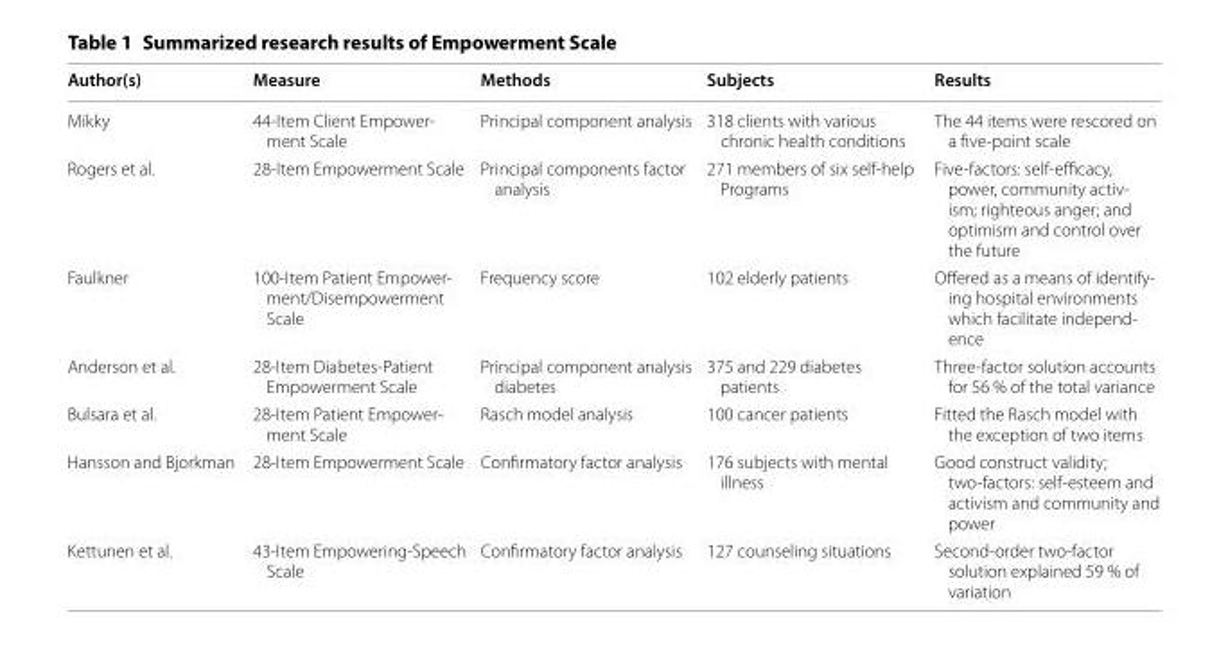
<table><thead><tr><td>Author(s)</td><td>Measure</td><td>Methods</td><td>Subjects</td><td>Results</td></tr></thead><tbody><tr><td>Mikky</td><td>44-Item Client Empower- ment Scale</td><td>Principal component analysis</td><td>318 clients with various chronic health conditions</td><td>The 44 items were rescored on a five-point scale</td></tr><tr><td>Rogers et al.</td><td>28-Item Empowerment Scale</td><td>Principal components factor analysis</td><td>271 members of six self-help Programs</td><td>Five-factors: self-efficacy, power, community activ- ism; righteous anger; and optimism and control over the future</td></tr><tr><td>Faulkner</td><td>100-Item Patient Empower- ment/Disempowerment Scale</td><td>Frequency score</td><td>102 elderly patients</td><td>Offered as a means of identify- ing hospital environments which facilitate independ- ence</td></tr><tr><td>Anderson et al.</td><td>28-Item Diabetes-Patient Empowerment Scale</td><td>Principal component analysis diabetes</td><td>375 and 229 diabetes patients</td><td>Three-factor solution accounts for 56 % of the total variance</td></tr><tr><td>Bulsara et al.</td><td>28-Item Patient Empower- ment Scale</td><td>Rasch model analysis</td><td>100 cancer patients</td><td>Fitted the Rasch model with the exception of two items</td></tr><tr><td>Hansson and Bjorkman</td><td>28-Item Empowerment Scale</td><td>Confirmatory factor analysis</td><td>176 subjects with mental illness</td><td>Good construct validity; two-factors: self-esteem and activism and community and power</td></tr><tr><td>Kettunen et al.</td><td>43-Item Empowering-Speech Scale</td><td>Confirmatory factor analysis</td><td>127 counseling situations</td><td>Second-order two-factor solution explained 59 % of variation</td></tr></tbody></table>